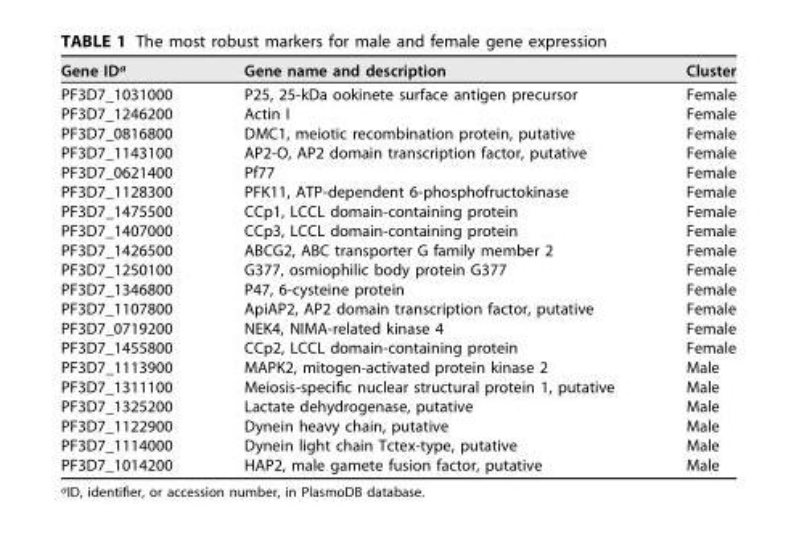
<table><thead><tr><td>Gene ID<sup>a</sup></td><td>Gene name and description</td><td>Cluster</td></tr></thead><tbody><tr><td>PF3D7_1031000</td><td>P25, 25-kDa ookinete surface antigen precursor</td><td>Female</td></tr><tr><td>PF3D7_1246200</td><td>Actin I</td><td>Female</td></tr><tr><td>PF3D7_0816800</td><td>DMC1, meiotic recombination protein, putative</td><td>Female</td></tr><tr><td>PF3D7_1143100</td><td>AP2-O, AP2 domain transcription factor, putative</td><td>Female</td></tr><tr><td>PF3D7_0621400</td><td>Pf77</td><td>Female</td></tr><tr><td>PF3D7_1128300</td><td>PFK11, ATP-dependent 6-phosphofructokinase</td><td>Female</td></tr><tr><td>PF3D7_1475500</td><td>CCp1, LCCL domain-containing protein</td><td>Female</td></tr><tr><td>PF3D7_1407000</td><td>CCp3, LCCL domain-containing protein</td><td>Female</td></tr><tr><td>PF3D7_1426500</td><td>ABCG2, ABC transporter G family member 2</td><td>Female</td></tr><tr><td>PF3D7_1250100</td><td>G377, osmiophilic body protein G377</td><td>Female</td></tr><tr><td>PF3D7_1346800</td><td>P47, 6-cysteine protein</td><td>Female</td></tr><tr><td>PF3D7_1107800</td><td>ApiAP2, AP2 domain transcription factor, putative</td><td>Female</td></tr><tr><td>PF3D7_0719200</td><td>NEK4, NIMA-related kinase 4</td><td>Female</td></tr><tr><td>PF3D7_1455800</td><td>CCp2, LCCL domain-containing protein</td><td>Female</td></tr><tr><td>PF3D7_1113900</td><td>MAPK2, mitogen-activated protein kinase 2</td><td>Male</td></tr><tr><td>PF3D7_1311100</td><td>Meiosis-specific nuclear structural protein 1, putative</td><td>Male</td></tr><tr><td>PF3D7_1325200</td><td>Lactate dehydrogenase, putative</td><td>Male</td></tr><tr><td>PF3D7_1122900</td><td>Dynein heavy chain, putative</td><td>Male</td></tr><tr><td>PF3D7_1114000</td><td>Dynein light chain Tctex-type, putative</td><td>Male</td></tr><tr><td>PF3D7_1014200</td><td>HAP2, male gamete fusion factor, putative</td><td>Male</td></tr></tbody></table>